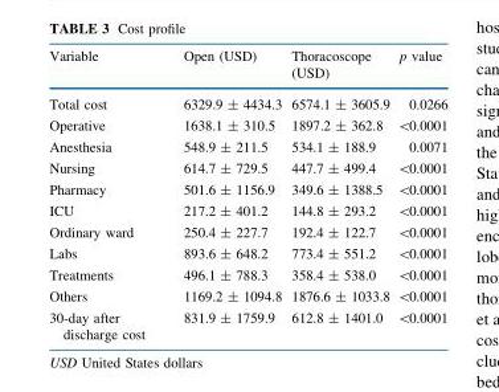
<table><thead><tr><td>Variable</td><td>Open (USD)</td><td>Thoracoscope (USD)</td><td>p value</td></tr></thead><tbody><tr><td>Total cost</td><td>6329.9 ± 4434.3</td><td>6574.1 ± 3605.9</td><td>0.0266</td></tr><tr><td>Operative</td><td>1638.1 ± 310.5</td><td>1897.2 ± 362.8</td><td>&lt;0.0001</td></tr><tr><td>Anesthesia</td><td>548.9 ± 211.5</td><td>534.1 ± 188.9</td><td>0.0071</td></tr><tr><td>Nursing</td><td>614.7 ± 729.5</td><td>447.7 ± 499.4</td><td>&lt;0.0001</td></tr><tr><td>Pharmacy</td><td>501.6 ± 1156.9</td><td>349.6 ± 1388.5</td><td>&lt;0.0001</td></tr><tr><td>ICU</td><td>217.2 ± 401.2</td><td>144.8 ± 293.2</td><td>&lt;0.0001</td></tr><tr><td>Ordinary ward</td><td>250.4 ± 227.7</td><td>192.4 ± 122.7</td><td>&lt;0.0001</td></tr><tr><td>Labs</td><td>893.6 ± 648.2</td><td>773.4 ± 551.2</td><td>&lt;0.0001</td></tr><tr><td>Treatments</td><td>496.1 ± 788.3</td><td>358.4 ± 538.0</td><td>&lt;0.0001</td></tr><tr><td>Others</td><td>1169.2 ± 1094.8</td><td>1876.6 ± 1033.8</td><td>&lt;0.0001</td></tr><tr><td>30-day after discharge cost</td><td>831.9 ± 1759.9</td><td>612.8 ± 1401.0</td><td>&lt;0.0001</td></tr></tbody></table>